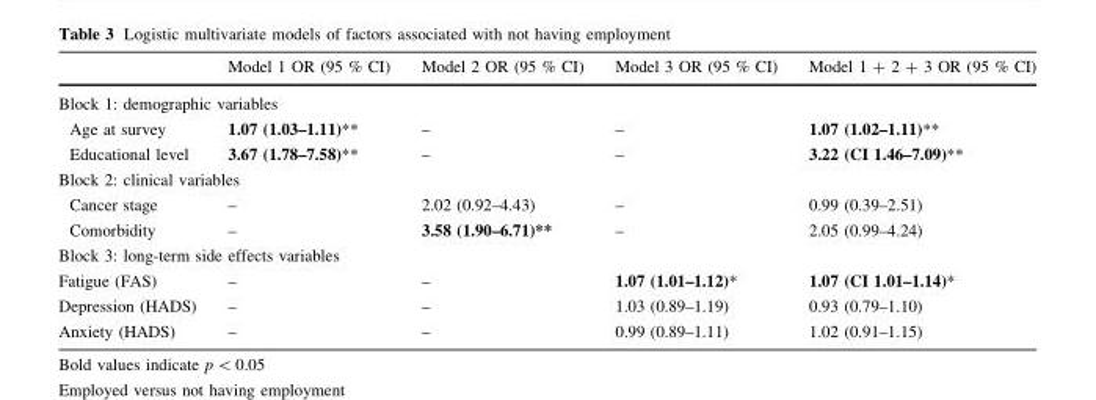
<table><thead><tr><td></td><td>Model 1 OR (95 % CI)</td><td>Model 2 OR (95 % CI)</td><td>Model 3 OR (95 % CI)</td><td>Model 1 + 2 + 3 OR (95 % CI)</td></tr></thead><tbody><tr><td colspan="5">Block 1: demographic variables</td></tr><tr><td>Age at survey</td><td>1.07 (1.03–1.11)**</td><td>–</td><td>–</td><td>1.07 (1.02–1.11)**</td></tr><tr><td>Educational level</td><td>3.67 (1.78–7.58)**</td><td>–</td><td>–</td><td>3.22 (CI 1.46–7.09)**</td></tr><tr><td colspan="5">Block 2: clinical variables</td></tr><tr><td>Cancer stage</td><td>–</td><td>2.02 (0.92–4.43)</td><td>–</td><td>0.99 (0.39–2.51)</td></tr><tr><td>Comorbidity</td><td>–</td><td>3.58 (1.90–6.71)**</td><td>–</td><td>2.05 (0.99–4.24)</td></tr><tr><td colspan="5">Block 3: long-term side effects variables</td></tr><tr><td>Fatigue (FAS)</td><td>–</td><td>–</td><td>1.07 (1.01–1.12)*</td><td>1.07 (CI 1.01–1.14)*</td></tr><tr><td>Depression (HADS)</td><td>–</td><td>–</td><td>1.03 (0.89–1.19)</td><td>0.93 (0.79–1.10)</td></tr><tr><td>Anxiety (HADS)</td><td>–</td><td>–</td><td>0.99 (0.89–1.11)</td><td>1.02 (0.91–1.15)</td></tr></tbody></table>